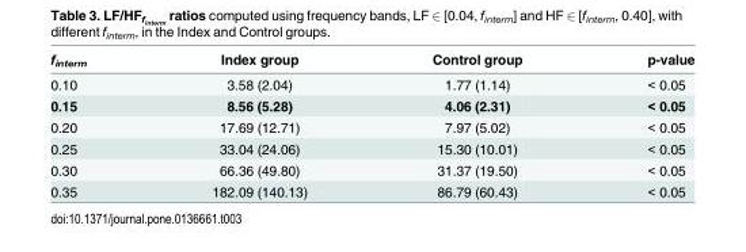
<table><thead><tr><td>f<sub>interm</sub></td><td>Index group</td><td>Control group</td><td>p-value</td></tr></thead><tbody><tr><td>0.10</td><td>3.58 (2.04)</td><td>1.77 (1.14)</td><td>&lt; 0.05</td></tr><tr><td>0.15</td><td>8.56 (5.28)</td><td>4.06 (2.31)</td><td>&lt; 0.05</td></tr><tr><td>0.20</td><td>17.69 (12.71)</td><td>7.97 (5.02)</td><td>&lt; 0.05</td></tr><tr><td>0.25</td><td>33.04 (24.06)</td><td>15.30 (10.01)</td><td>&lt; 0.05</td></tr><tr><td>0.30</td><td>66.36 (49.80)</td><td>31.37 (19.50)</td><td>&lt; 0.05</td></tr><tr><td>0.35</td><td>182.09 (140.13)</td><td>86.79 (60.43)</td><td>&lt; 0.05</td></tr></tbody></table>